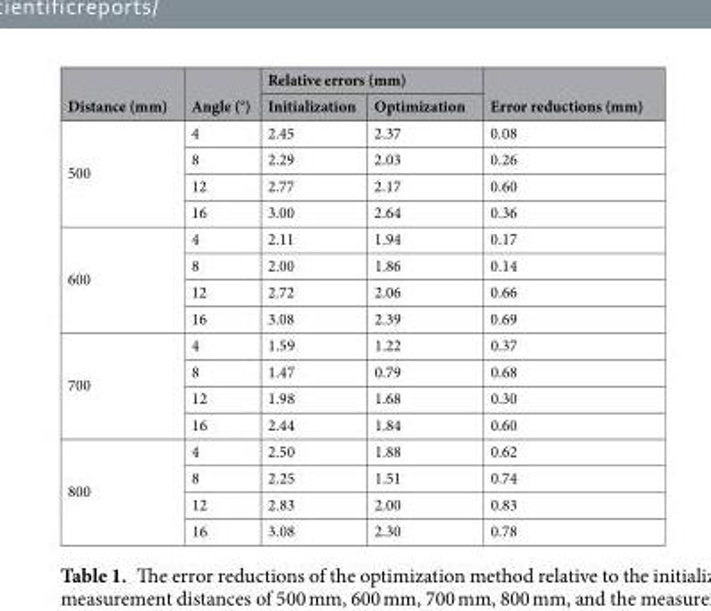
<table><thead><tr><td rowspan="2">Distance (mm)</td><td rowspan="2">Angle (°)</td><td colspan="2">Relative errors (mm)</td><td rowspan="2">Error reductions (mm)</td></tr><tr><td>Initialization</td><td>Optimization</td></tr></thead><tbody><tr><td rowspan="4">500</td><td>4</td><td>2.45</td><td>2.37</td><td>0.08</td></tr><tr><td>8</td><td>2.29</td><td>2.03</td><td>0.26</td></tr><tr><td>12</td><td>2.77</td><td>2.17</td><td>0.60</td></tr><tr><td>16</td><td>3.00</td><td>2.64</td><td>0.36</td></tr><tr><td rowspan="4">600</td><td>4</td><td>2.11</td><td>1.94</td><td>0.17</td></tr><tr><td>8</td><td>2.00</td><td>1.86</td><td>0.14</td></tr><tr><td>12</td><td>2.72</td><td>2.06</td><td>0.66</td></tr><tr><td>16</td><td>3.08</td><td>2.39</td><td>0.69</td></tr><tr><td rowspan="4">700</td><td>4</td><td>1.59</td><td>1.22</td><td>0.37</td></tr><tr><td>8</td><td>1.47</td><td>0.79</td><td>0.68</td></tr><tr><td>12</td><td>1.98</td><td>1.68</td><td>0.30</td></tr><tr><td>16</td><td>2.44</td><td>1.84</td><td>0.60</td></tr><tr><td rowspan="4">800</td><td>4</td><td>2.50</td><td>1.88</td><td>0.62</td></tr><tr><td>8</td><td>2.25</td><td>1.51</td><td>0.74</td></tr><tr><td>12</td><td>2.83</td><td>2.00</td><td>0.83</td></tr><tr><td>16</td><td>3.08</td><td>2.30</td><td>0.78</td></tr></tbody></table>